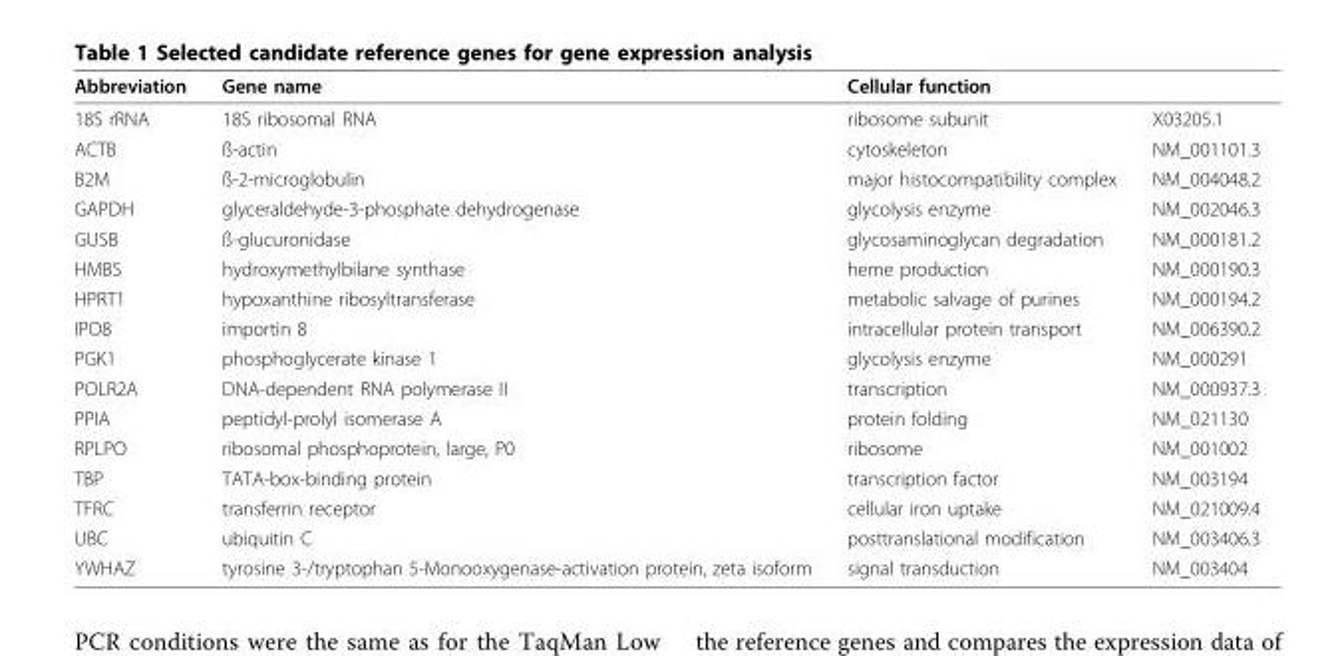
<table><thead><tr><td>Abbreviation</td><td>Gene name</td><td>Cellular function</td><td></td></tr></thead><tbody><tr><td>18S rRNA</td><td>18S ribosomal RNA</td><td>ribosome subunit</td><td>X03205.1</td></tr><tr><td>ACTB</td><td>ß-actin</td><td>cytoskeleton</td><td>NM_001101.3</td></tr><tr><td>B2M</td><td>ß-2-microglobulin</td><td>major histocompatibility complex</td><td>NM_004048.2</td></tr><tr><td>GAPDH</td><td>glyceraldehyde-3-phosphate dehydrogenase</td><td>glycolysis enzyme</td><td>NM_002046.3</td></tr><tr><td>GUSB</td><td>ß-glucuronidase</td><td>glycosaminoglycan degradation</td><td>NM_000181.2</td></tr><tr><td>HMBS</td><td>hydroxymethylbilane synthase</td><td>heme production</td><td>NM_000190.3</td></tr><tr><td>HPRT1</td><td>hypoxanthine ribosyltransferase</td><td>metabolic salvage of purines</td><td>NM_000194.2</td></tr><tr><td>IPO8</td><td>importin 8</td><td>intracellular protein transport</td><td>NM_006390.2</td></tr><tr><td>PGK1</td><td>phosphoglycerate kinase 1</td><td>glycolysis enzyme</td><td>NM_000291</td></tr><tr><td>POLR2A</td><td>DNA-dependent RNA polymerase II</td><td>transcription</td><td>NM_000937.3</td></tr><tr><td>PPIA</td><td>peptidyl-prolyl isomerase A</td><td>protein folding</td><td>NM_021130</td></tr><tr><td>RPLPO</td><td>ribosomal phosphoprotein, large, P0</td><td>ribosome</td><td>NM_001002</td></tr><tr><td>TBP</td><td>TATA-box-binding protein</td><td>transcription factor</td><td>NM_003194</td></tr><tr><td>TFRC</td><td>transferrin receptor</td><td>cellular iron uptake</td><td>NM_021009.4</td></tr><tr><td>UBC</td><td>ubiquitin C</td><td>posttranslational modification</td><td>NM_003406.3</td></tr><tr><td>YWHAZ</td><td>tyrosine 3-/tryptophan 5-Monooxygenase-activation protein, zeta isoform</td><td>signal transduction</td><td>NM_003404</td></tr></tbody></table>